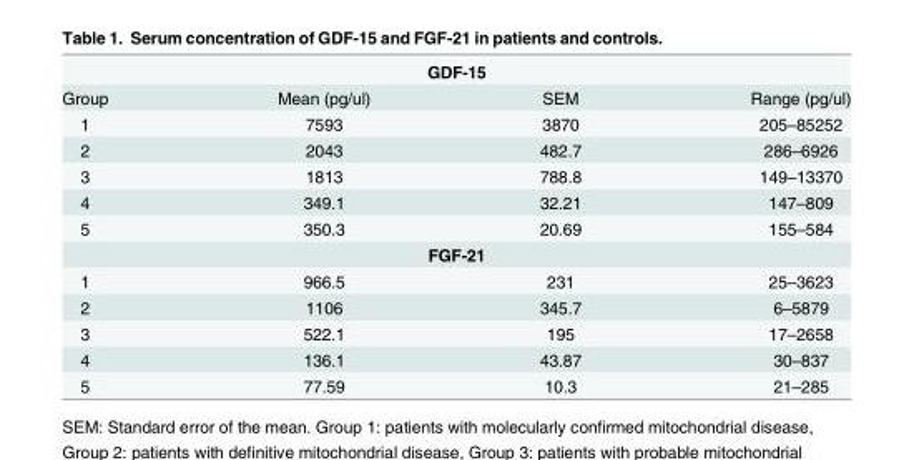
<table><tbody><tr><td colspan="4">GDF-15</td></tr><tr><td>Group</td><td>Mean (pg/ul)</td><td>SEM</td><td>Range (pg/ul)</td></tr><tr><td>1</td><td>7593</td><td>3870</td><td>205–85252</td></tr><tr><td>2</td><td>2043</td><td>482.7</td><td>286–6926</td></tr><tr><td>3</td><td>1813</td><td>788.8</td><td>149–13370</td></tr><tr><td>4</td><td>349.1</td><td>32.21</td><td>147–809</td></tr><tr><td>5</td><td>350.3</td><td>20.69</td><td>155–584</td></tr><tr><td colspan="4">FGF-21</td></tr><tr><td>1</td><td>966.5</td><td>231</td><td>25–3623</td></tr><tr><td>2</td><td>1106</td><td>345.7</td><td>6–5879</td></tr><tr><td>3</td><td>522.1</td><td>195</td><td>17–2658</td></tr><tr><td>4</td><td>136.1</td><td>43.87</td><td>30–837</td></tr><tr><td>5</td><td>77.59</td><td>10.3</td><td>21–285</td></tr></tbody></table>